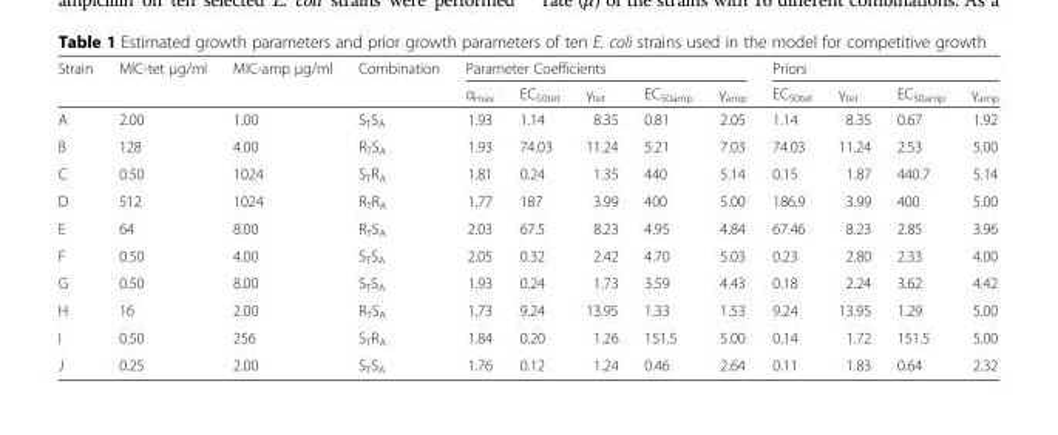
<table><thead><tr><td rowspan="2">Strain</td><td rowspan="2">MIC-tet μg/ml</td><td rowspan="2">MIC-amp μg/ml</td><td rowspan="2">Combination</td><td colspan="5">Parameter Coefficients</td><td colspan="4">Priors</td></tr><tr><td>α<sub>max</sub></td><td>EC<sub>50tet</sub></td><td>γ<sub>tet</sub></td><td>EC<sub>50amp</sub></td><td>γ<sub>amp</sub></td><td>EC<sub>50tet</sub></td><td>γ<sub>tet</sub></td><td>EC<sub>50amp</sub></td><td>γ<sub>amp</sub></td></tr></thead><tbody><tr><td>A</td><td>2.00</td><td>1.00</td><td>S<sub>T</sub>S<sub>A</sub></td><td>1.93</td><td>1.14</td><td>8.35</td><td>0.81</td><td>2.05</td><td>1.14</td><td>8.35</td><td>0.67</td><td>1.92</td></tr><tr><td>B</td><td>128</td><td>4.00</td><td>R<sub>T</sub>S<sub>A</sub></td><td>1.93</td><td>74.03</td><td>11.24</td><td>5.21</td><td>7.03</td><td>74.03</td><td>11.24</td><td>2.53</td><td>5.00</td></tr><tr><td>C</td><td>0.50</td><td>1024</td><td>S<sub>T</sub>R<sub>A</sub></td><td>1.81</td><td>0.24</td><td>1.35</td><td>440</td><td>5.14</td><td>0.15</td><td>1.87</td><td>440.7</td><td>5.14</td></tr><tr><td>D</td><td>512</td><td>1024</td><td>R<sub>T</sub>R<sub>A</sub></td><td>1.77</td><td>187</td><td>3.99</td><td>400</td><td>5.00</td><td>186.9</td><td>3.99</td><td>400</td><td>5.00</td></tr><tr><td>E</td><td>64</td><td>8.00</td><td>R<sub>T</sub>S<sub>A</sub></td><td>2.03</td><td>67.5</td><td>8.23</td><td>4.95</td><td>4.84</td><td>67.46</td><td>8.23</td><td>2.85</td><td>3.96</td></tr><tr><td>F</td><td>0.50</td><td>4.00</td><td>S<sub>T</sub>S<sub>A</sub></td><td>2.05</td><td>0.32</td><td>2.42</td><td>4.70</td><td>5.03</td><td>0.23</td><td>2.80</td><td>2.33</td><td>4.00</td></tr><tr><td>G</td><td>0.50</td><td>8.00</td><td>S<sub>T</sub>S<sub>A</sub></td><td>1.93</td><td>0.24</td><td>1.73</td><td>3.59</td><td>4.43</td><td>0.18</td><td>2.24</td><td>3.62</td><td>4.42</td></tr><tr><td>H</td><td>16</td><td>2.00</td><td>R<sub>T</sub>S<sub>A</sub></td><td>1.73</td><td>9.24</td><td>13.95</td><td>1.33</td><td>1.53</td><td>9.24</td><td>13.95</td><td>1.29</td><td>5.00</td></tr><tr><td>I</td><td>0.50</td><td>256</td><td>S<sub>T</sub>R<sub>A</sub></td><td>1.84</td><td>0.20</td><td>1.26</td><td>151.5</td><td>5.00</td><td>0.14</td><td>1.72</td><td>151.5</td><td>5.00</td></tr><tr><td>J</td><td>0.25</td><td>2.00</td><td>S<sub>T</sub>S<sub>A</sub></td><td>1.76</td><td>0.12</td><td>1.24</td><td>0.46</td><td>2.64</td><td>0.11</td><td>1.83</td><td>0.64</td><td>2.32</td></tr></tbody></table>